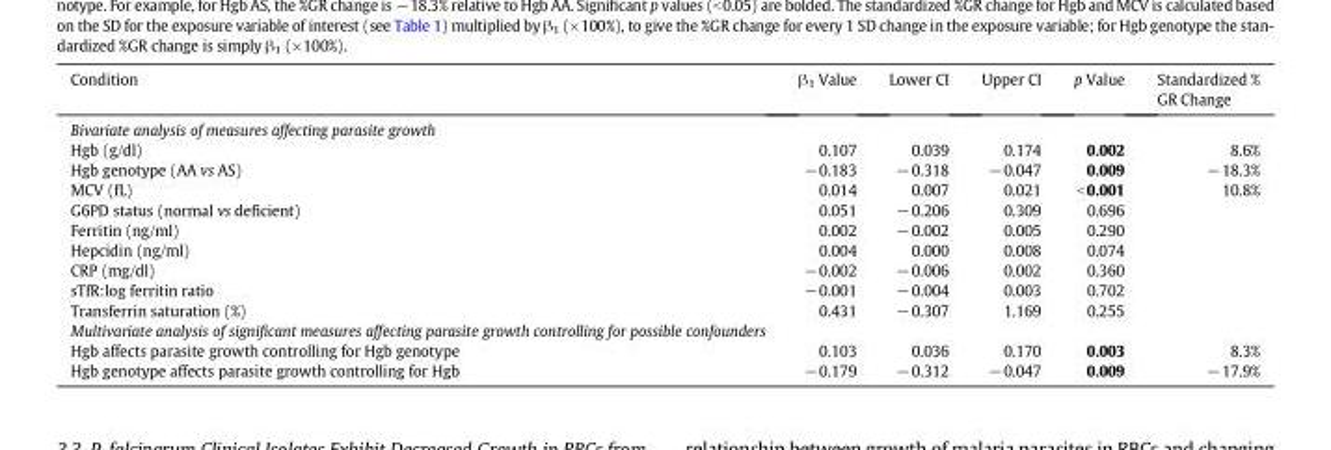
<table><thead><tr><td>Condition</td><td>β<sub>1</sub> Value</td><td>Lower CI</td><td>Upper CI</td><td>p Value</td><td>Standardized % GR Change</td></tr></thead><tbody><tr><td colspan="6">Bivariate analysis of measures affecting parasite growth</td></tr><tr><td>Hgb (g/dl)</td><td>0.107</td><td>0.039</td><td>0.174</td><td>0.002</td><td>8.6%</td></tr><tr><td>Hgb genotype (AA vs AS)</td><td>−0.183</td><td>−0.318</td><td>−0.047</td><td>0.009</td><td>−18.3%</td></tr><tr><td>MCV (fL)</td><td>0.014</td><td>0.007</td><td>0.021</td><td>&lt;0.001</td><td>10.8%</td></tr><tr><td>G6PD status (normal vs deficient)</td><td>0.051</td><td>−0.206</td><td>0.309</td><td>0.696</td><td></td></tr><tr><td>Ferritin (ng/ml)</td><td>0.002</td><td>−0.002</td><td>0.005</td><td>0.290</td><td></td></tr><tr><td>Hepcidin (ng/ml)</td><td>0.004</td><td>0.000</td><td>0.008</td><td>0.074</td><td></td></tr><tr><td>CRP (mg/dl)</td><td>−0.002</td><td>−0.006</td><td>0.002</td><td>0.360</td><td></td></tr><tr><td>sTfR:log ferritin ratio</td><td>−0.001</td><td>−0.004</td><td>0.003</td><td>0.702</td><td></td></tr><tr><td>Transferrin saturation (%)</td><td>0.431</td><td>−0.307</td><td>1.169</td><td>0.255</td><td></td></tr><tr><td colspan="6">Multivariate analysis of significant measures affecting parasite growth controlling for possible confounders</td></tr><tr><td>Hgb affects parasite growth controlling for Hgb genotype</td><td>0.103</td><td>0.036</td><td>0.170</td><td>0.003</td><td>8.3%</td></tr><tr><td>Hgb genotype affects parasite growth controlling for Hgb</td><td>−0.179</td><td>−0.312</td><td>−0.047</td><td>0.009</td><td>−17.9%</td></tr></tbody></table>